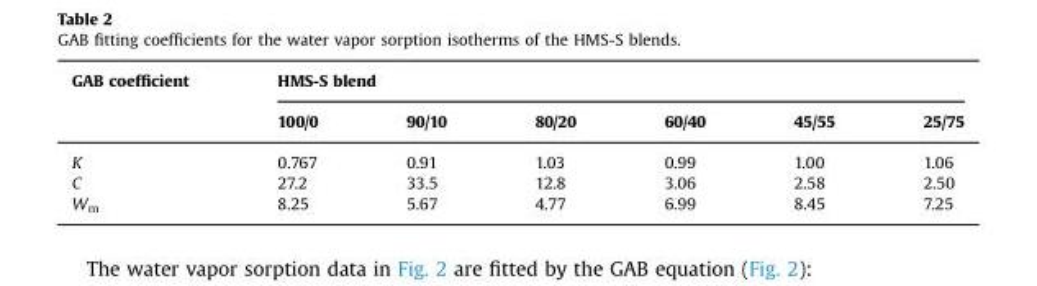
<table><thead><tr><td rowspan="2">GAB coefficient</td><td colspan="6">HMS-S blend</td></tr><tr><td>100/0</td><td>90/10</td><td>80/20</td><td>60/40</td><td>45/55</td><td>25/75</td></tr></thead><tbody><tr><td>K</td><td>0.767</td><td>0.91</td><td>1.03</td><td>0.99</td><td>1.00</td><td>1.06</td></tr><tr><td>C</td><td>27.2</td><td>33.5</td><td>12.8</td><td>3.06</td><td>2.58</td><td>2.50</td></tr><tr><td>W<sub>m</sub></td><td>8.25</td><td>5.67</td><td>4.77</td><td>6.99</td><td>8.45</td><td>7.25</td></tr></tbody></table>